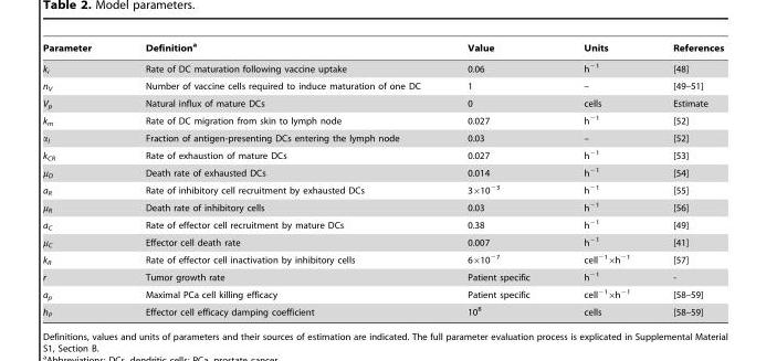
<table><thead><tr><td>Parameter</td><td>Definition<sup>a</sup></td><td>Value</td><td>Units</td><td>References</td></tr></thead><tbody><tr><td>k<sub>i</sub></td><td>Rate of DC maturation following vaccine uptake</td><td>0.06</td><td>h<sup>−1</sup></td><td>[48]</td></tr><tr><td>n<sub>V</sub></td><td>Number of vaccine cells required to induce maturation of one DC</td><td>1</td><td>–</td><td>[49–51]</td></tr><tr><td>V<sub>p</sub></td><td>Natural influx of mature DCs</td><td>0</td><td>cells</td><td>Estimate</td></tr><tr><td>k<sub>m</sub></td><td>Rate of DC migration from skin to lymph node</td><td>0.027</td><td>h<sup>−1</sup></td><td>[52]</td></tr><tr><td>α<sub>l</sub></td><td>Fraction of antigen-presenting DCs entering the lymph node</td><td>0.03</td><td>–</td><td>[52]</td></tr><tr><td>k<sub>CR</sub></td><td>Rate of exhaustion of mature DCs</td><td>0.027</td><td>h<sup>−1</sup></td><td>[53]</td></tr><tr><td>µ<sub>D</sub></td><td>Death rate of exhausted DCs</td><td>0.014</td><td>h<sup>−1</sup></td><td>[54]</td></tr><tr><td>a<sub>R</sub></td><td>Rate of inhibitory cell recruitment by exhausted DCs</td><td>3×10<sup>−3</sup></td><td>h<sup>−1</sup></td><td>[55]</td></tr><tr><td>µ<sub>R</sub></td><td>Death rate of inhibitory cells</td><td>0.03</td><td>h<sup>−1</sup></td><td>[56]</td></tr><tr><td>a<sub>C</sub></td><td>Rate of effector cell recruitment by mature DCs</td><td>0.38</td><td>h<sup>−1</sup></td><td>[49]</td></tr><tr><td>µ<sub>C</sub></td><td>Effector cell death rate</td><td>0.007</td><td>h<sup>−1</sup></td><td>[41]</td></tr><tr><td>k<sub>R</sub></td><td>Rate of effector cell inactivation by inhibitory cells</td><td>6×10<sup>−7</sup></td><td>cell<sup>−1</sup>×h<sup>−1</sup></td><td>[57]</td></tr><tr><td>r</td><td>Tumor growth rate</td><td>Patient specific</td><td>h<sup>−1</sup></td><td>-</td></tr><tr><td>a<sub>p</sub></td><td>Maximal PCa cell killing efficacy</td><td>Patient specific</td><td>cell<sup>−1</sup>×h<sup>−1</sup></td><td>[58–59]</td></tr><tr><td>h<sub>P</sub></td><td>Effector cell efficacy damping coefficient</td><td>10<sup>8</sup></td><td>cells</td><td>[58–59]</td></tr></tbody></table>